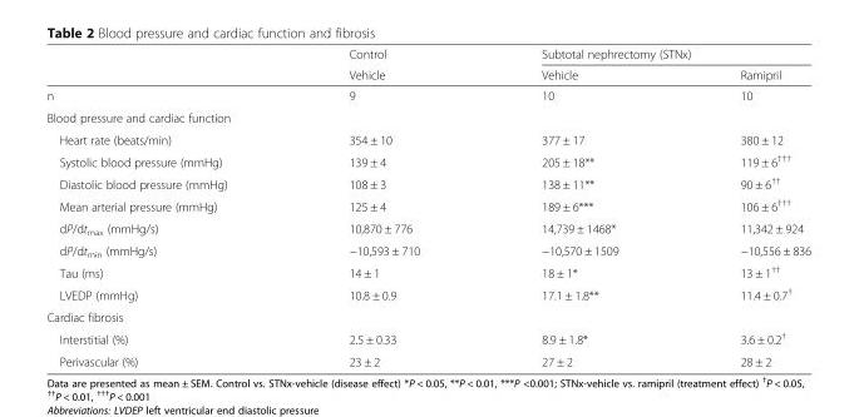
<table><thead><tr><td rowspan="2"></td><td rowspan="2">Control Vehicle</td><td colspan="2">Subtotal nephrectomy (STNx)</td></tr><tr><td>Vehicle</td><td>Ramipril</td></tr></thead><tbody><tr><td>n</td><td>9</td><td>10</td><td>10</td></tr><tr><td colspan="4">Blood pressure and cardiac function</td></tr><tr><td>Heart rate (beats/min)</td><td>354 ± 10</td><td>377 ± 17</td><td>380 ± 12</td></tr><tr><td>Systolic blood pressure (mmHg)</td><td>139 ± 4</td><td>205 ± 18**</td><td>119 ± 6<sup>†††</sup></td></tr><tr><td>Diastolic blood pressure (mmHg)</td><td>108 ± 3</td><td>138 ± 11**</td><td>90 ± 6<sup>††</sup></td></tr><tr><td>Mean arterial pressure (mmHg)</td><td>125 ± 4</td><td>189 ± 6***</td><td>106 ± 6<sup>†††</sup></td></tr><tr><td>dP/dt<sub>max</sub> (mmHg/s)</td><td>10,870 ± 776</td><td>14,739 ± 1468*</td><td>11,342 ± 924</td></tr><tr><td>dP/dt<sub>min</sub> (mmHg/s)</td><td>−10,593 ± 710</td><td>−10,570 ± 1509</td><td>−10,556 ± 836</td></tr><tr><td>Tau (ms)</td><td>14 ± 1</td><td>18 ± 1*</td><td>13 ± 1<sup>††</sup></td></tr><tr><td>LVEDP (mmHg)</td><td>10.8 ± 0.9</td><td>17.1 ± 1.8**</td><td>11.4 ± 0.7<sup>†</sup></td></tr><tr><td colspan="4">Cardiac fibrosis</td></tr><tr><td>Interstitial (%)</td><td>2.5 ± 0.33</td><td>8.9 ± 1.8*</td><td>3.6 ± 0.2<sup>†</sup></td></tr><tr><td>Perivascular (%)</td><td>23 ± 2</td><td>27 ± 2</td><td>28 ± 2</td></tr></tbody></table>